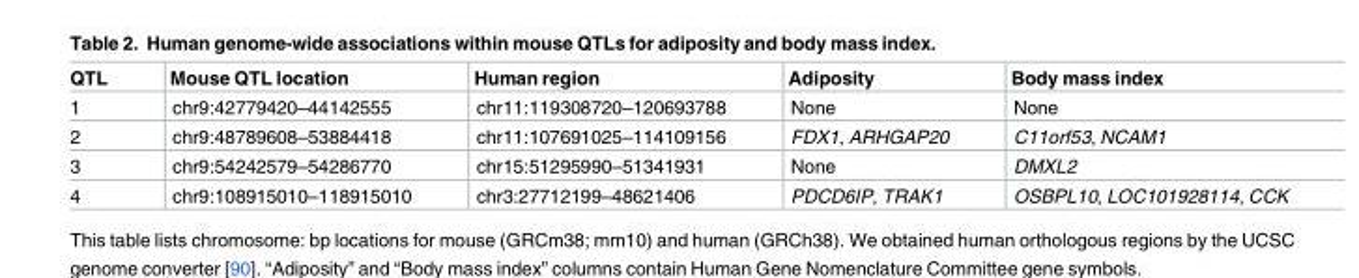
<table><thead><tr><td>QTL</td><td>Mouse QTL location</td><td>Human region</td><td>Adiposity</td><td>Body mass index</td></tr></thead><tbody><tr><td>1</td><td>chr9:42779420–44142555</td><td>chr11:119308720–120693788</td><td>None</td><td>None</td></tr><tr><td>2</td><td>chr9:48789608–53884418</td><td>chr11:107691025–114109156</td><td>FDX1, ARHGAP20</td><td>C11orf53, NCAM1</td></tr><tr><td>3</td><td>chr9:54242579–54286770</td><td>chr15:51295990–51341931</td><td>None</td><td>DMXL2</td></tr><tr><td>4</td><td>chr9:108915010–118915010</td><td>chr3:27712199–48621406</td><td>PDCD6IP, TRAK1</td><td>OSBPL10, LOC101928114, CCK</td></tr></tbody></table>